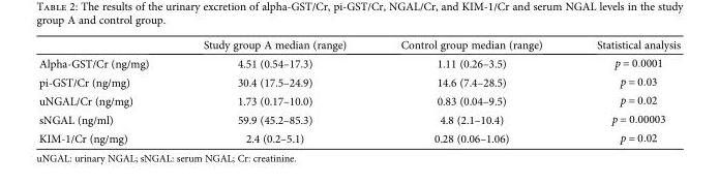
<table><thead><tr><td></td><td>Study group A median (range)</td><td>Control group median (range)</td><td>Statistical analysis</td></tr></thead><tbody><tr><td>Alpha-GST/Cr (ng/mg)</td><td>4.51 (0.54–17.3)</td><td>1.11 (0.26–3.5)</td><td>p = 0 0001</td></tr><tr><td>pi-GST/Cr (ng/mg)</td><td>30.4 (17.5–24.9)</td><td>14.6 (7.4–28.5)</td><td>p = 0 03</td></tr><tr><td>uNGAL/Cr (ng/mg)</td><td>1.73 (0.17–10.0)</td><td>0.83 (0.04–9.5)</td><td>p = 0 02</td></tr><tr><td>sNGAL (ng/ml)</td><td>59.9 (45.2–85.3)</td><td>4.8 (2.1–10.4)</td><td>p = 0 00003</td></tr><tr><td>KIM-1/Cr (ng/mg)</td><td>2.4 (0.2–5.1)</td><td>0.28 (0.06–1.06)</td><td>p = 0 02</td></tr></tbody></table>